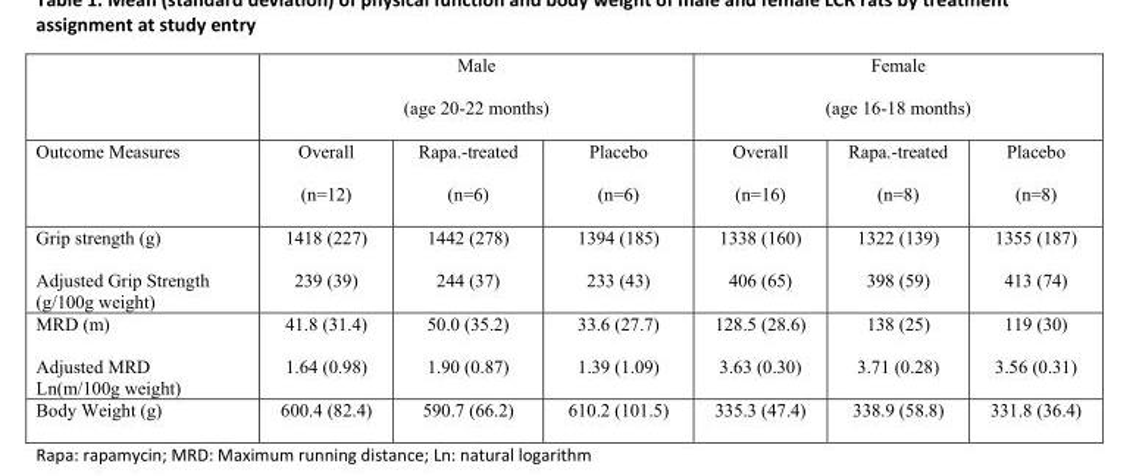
<table><thead><tr><td rowspan="2">Outcome Measures</td><td colspan="3">Male (age 20-22 months)</td><td colspan="3">Female (age 16-18 months)</td></tr><tr><td>Overall (n=12)</td><td>Rapa.-treated (n=6)</td><td>Placebo (n=6)</td><td>Overall (n=16)</td><td>Rapa.-treated (n=8)</td><td>Placebo (n=8)</td></tr></thead><tbody><tr><td>Grip strength (g)</td><td>1418 (227)</td><td>1442 (278)</td><td>1394 (185)</td><td>1338 (160)</td><td>1322 (139)</td><td>1355 (187)</td></tr><tr><td>Adjusted Grip Strength (g/100g weight)</td><td>239 (39)</td><td>244 (37)</td><td>233 (43)</td><td>406 (65)</td><td>398 (59)</td><td>413 (74)</td></tr><tr><td>MRD (m)</td><td>41.8 (31.4)</td><td>50.0 (35.2)</td><td>33.6 (27.7)</td><td>128.5 (28.6)</td><td>138 (25)</td><td>119 (30)</td></tr><tr><td>Adjusted MRD Ln(m/100g weight)</td><td>1.64 (0.98)</td><td>1.90 (0.87)</td><td>1.39 (1.09)</td><td>3.63 (0.30)</td><td>3.71 (0.28)</td><td>3.56 (0.31)</td></tr><tr><td>Body Weight (g)</td><td>600.4 (82.4)</td><td>590.7 (66.2)</td><td>610.2 (101.5)</td><td>335.3 (47.4)</td><td>338.9 (58.8)</td><td>331.8 (36.4)</td></tr></tbody></table>